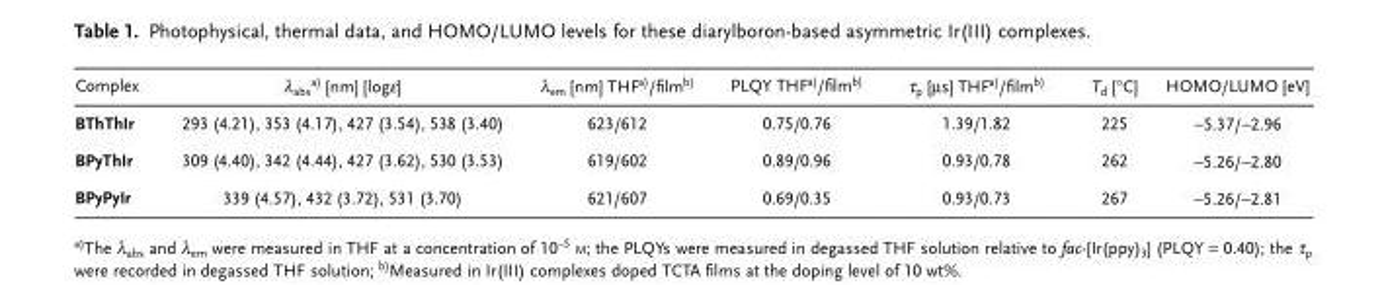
<table><thead><tr><td>Complex</td><td>λ<sub>abs</sub>a) [nm] [logε]</td><td>λ<sub>em</sub> [nm] THFa)/filmb)</td><td>PLQY THFa)/filmb)</td><td>τ<sub>p</sub> [µs] THFa)/filmb)</td><td>T<sub>d</sub> [°C]</td><td>HOMO/LUMO [eV]</td></tr></thead><tbody><tr><td>BThThIr</td><td>293 (4.21), 353 (4.17), 427 (3.54), 538 (3.40)</td><td>623/612</td><td>0.75/0.76</td><td>1.39/1.82</td><td>225</td><td>−5.37/−2.96</td></tr><tr><td>BPyThIr</td><td>309 (4.40), 342 (4.44), 427 (3.62), 530 (3.53)</td><td>619/602</td><td>0.89/0.96</td><td>0.93/0.78</td><td>262</td><td>−5.26/−2.80</td></tr><tr><td>BPyPyIr</td><td>339 (4.57), 432 (3.72), 531 (3.70)</td><td>621/607</td><td>0.69/0.35</td><td>0.93/0.73</td><td>267</td><td>−5.26/−2.81</td></tr></tbody></table>